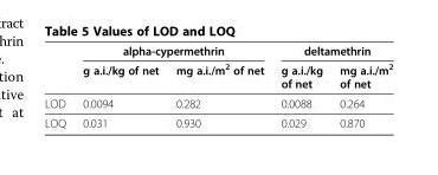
<table><thead><tr><td rowspan="2"></td><td colspan="2">alpha-cypermethrin</td><td colspan="2">deltamethrin</td></tr><tr><td>g a.i./kg of net</td><td>mg a.i./m<sup>2</sup> of net</td><td>g a.i./kg of net</td><td>mg a.i./m<sup>2</sup> of net</td></tr></thead><tbody><tr><td>LOD</td><td>0.0094</td><td>0.282</td><td>0.0088</td><td>0.264</td></tr><tr><td>LOQ</td><td>0.031</td><td>0.930</td><td>0.029</td><td>0.870</td></tr></tbody></table>